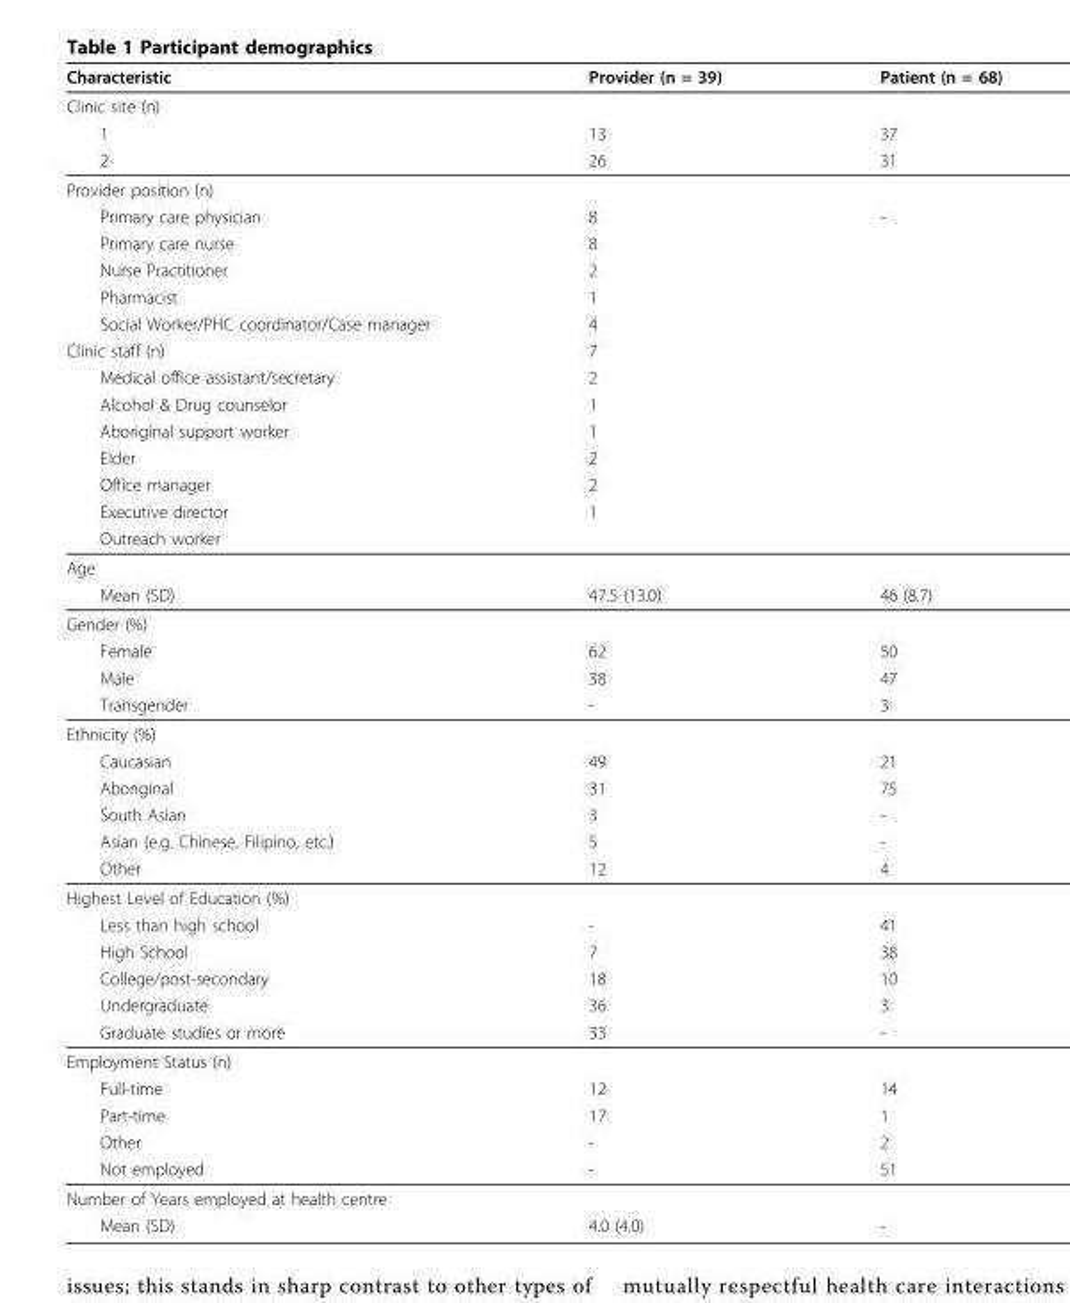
<table><thead><tr><td>Characteristic</td><td>Provider (n = 39)</td><td>Patient (n = 68)</td></tr></thead><tbody><tr><td colspan="3">Clinic site (n)</td></tr><tr><td>1</td><td>13</td><td>37</td></tr><tr><td>2</td><td>26</td><td>31</td></tr><tr><td colspan="3">Provider position (n)</td></tr><tr><td>Primary care physician</td><td>8</td><td>-</td></tr><tr><td>Primary care nurse</td><td>8</td><td></td></tr><tr><td>Nurse Practitioner</td><td>2</td><td></td></tr><tr><td>Pharmacist</td><td>1</td><td></td></tr><tr><td>Social Worker/PHC coordinator/Case manager</td><td>4</td><td></td></tr><tr><td>Clinic staff (n)</td><td>7</td><td></td></tr><tr><td>Medical office assistant/secretary</td><td>2</td><td></td></tr><tr><td>Alcohol &amp; Drug counselor</td><td>1</td><td></td></tr><tr><td>Aboriginal support worker</td><td>1</td><td></td></tr><tr><td>Elder</td><td>2</td><td></td></tr><tr><td>Office manager</td><td>2</td><td></td></tr><tr><td>Executive director</td><td>1</td><td></td></tr><tr><td colspan="3">Outreach worker</td></tr><tr><td colspan="3">Age</td></tr><tr><td>Mean (SD)</td><td>47.5 (13.0)</td><td>46 (8.7)</td></tr><tr><td colspan="3">Gender (%)</td></tr><tr><td>Female</td><td>62</td><td>50</td></tr><tr><td>Male</td><td>38</td><td>47</td></tr><tr><td>Transgender</td><td>-</td><td>3</td></tr><tr><td colspan="3">Ethnicity (%)</td></tr><tr><td>Caucasian</td><td>49</td><td>21</td></tr><tr><td>Aboriginal</td><td>31</td><td>75</td></tr><tr><td>South Asian</td><td>3</td><td>-</td></tr><tr><td>Asian (e.g. Chinese, Filipino, etc.)</td><td>5</td><td>-</td></tr><tr><td>Other</td><td>12</td><td>4</td></tr><tr><td colspan="3">Highest Level of Education (%)</td></tr><tr><td>Less than high school</td><td>-</td><td>41</td></tr><tr><td>High School</td><td>7</td><td>38</td></tr><tr><td>College/post-secondary</td><td>18</td><td>10</td></tr><tr><td>Undergraduate</td><td>36</td><td>3</td></tr><tr><td>Graduate studies or more</td><td>33</td><td>-</td></tr><tr><td colspan="3">Employment Status (n)</td></tr><tr><td>Full-time</td><td>12</td><td>14</td></tr><tr><td>Part-time</td><td>17</td><td>1</td></tr><tr><td>Other</td><td>-</td><td>2</td></tr><tr><td>Not employed</td><td>-</td><td>51</td></tr><tr><td colspan="3">Number of Years employed at health centre</td></tr><tr><td>Mean (SD)</td><td>4.0 (4.0)</td><td>-</td></tr></tbody></table>